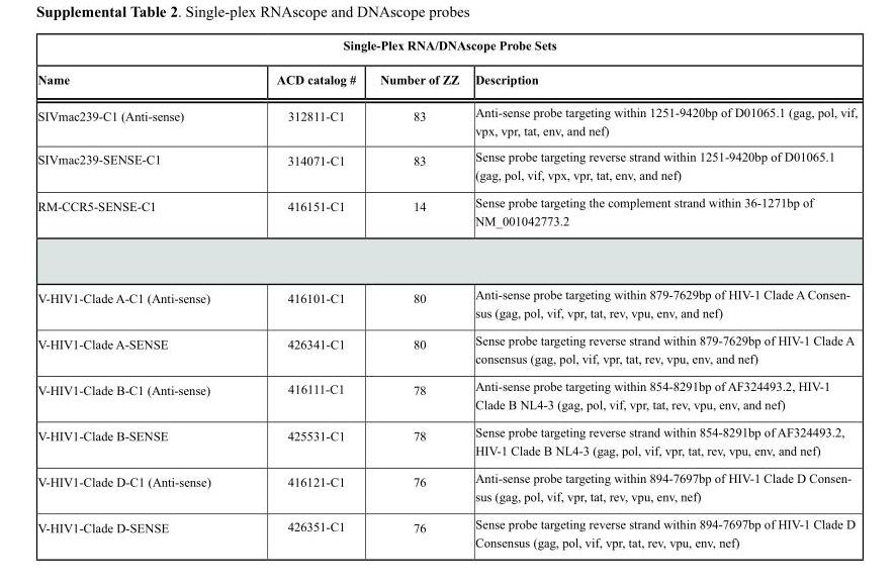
<table><thead><tr><td colspan="4">Single-Plex RNA/DNAscope Probe Sets</td></tr><tr><td>Name</td><td>ACD catalog #</td><td>Number of ZZ</td><td>Description</td></tr></thead><tbody><tr><td>SIVmac239-C1 (Anti-sense)</td><td>312811-C1</td><td>83</td><td>Anti-sense probe targeting within 1251-9420bp of D01065.1 (gag, pol, vif, vpx, vpr, tat, env, and nef)</td></tr><tr><td>SIVmac239-SENSE-C1</td><td>314071-C1</td><td>83</td><td>Sense probe targeting reverse strand within 1251-9420bp of D01065.1 (gag, pol, vif, vpx, vpr, tat, env, and nef)</td></tr><tr><td>RM-CCR5-SENSE-C1</td><td>416151-C1</td><td>14</td><td>Sense probe targeting the complement strand within 36-1271bp of NM_001042773.2</td></tr><tr><td>V-HIV1-Clade A-C1 (Anti-sense)</td><td>416101-C1</td><td>80</td><td>Anti-sense probe targeting within 879-7629bp of HIV-1 Clade A Consen- sus (gag, pol, vif, vpr, tat, rev, vpu, env, and nef)</td></tr><tr><td>V-HIV1-Clade A-SENSE</td><td>426341-C1</td><td>80</td><td>Sense probe targeting reverse strand within 879-7629bp of HIV-1 Clade A consensus (gag, pol, vif, vpr, tat, rev, vpu, env, and nef)</td></tr><tr><td>V-HIV1-Clade B-C1 (Anti-sense)</td><td>416111-C1</td><td>78</td><td>Anti-sense probe targeting within 854-8291bp of AF324493.2, HIV-1 Clade B NL4-3 (gag, pol, vif, vpr, tat, rev, vpu, env, and nef)</td></tr><tr><td>V-HIV1-Clade B-SENSE</td><td>425531-C1</td><td>78</td><td>Sense probe targeting reverse strand within 854-8291bp of AF324493.2, HIV-1 Clade B NL4-3 (gag, pol, vif, vpr, tat, rev, vpu, env, and nef)</td></tr><tr><td>V-HIV1-Clade D-C1 (Anti-sense)</td><td>416121-C1</td><td>76</td><td>Anti-sense probe targeting within 894-7697bp of HIV-1 Clade D Consen- sus (gag, pol, vif, vpr, tat, rev, vpu, env, nef)</td></tr><tr><td>V-HIV1-Clade D-SENSE</td><td>426351-C1</td><td>76</td><td>Sense probe targeting reverse strand within 894-7697bp of HIV-1 Clade D Consensus (gag, pol, vif, vpr, tat, rev, vpu, env, nef)</td></tr></tbody></table>